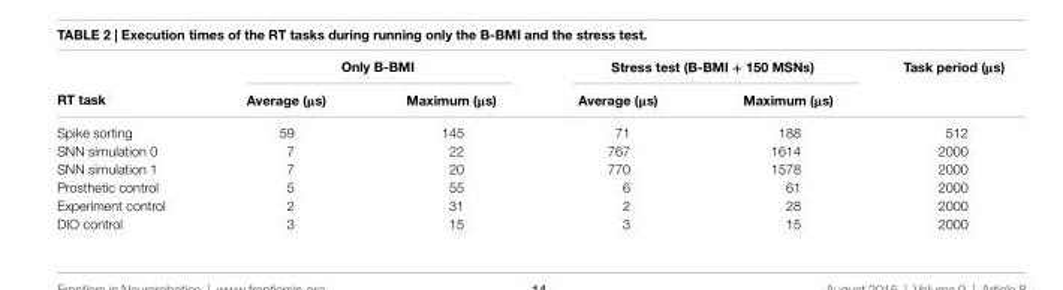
<table><thead><tr><td rowspan="2">rT task</td><td colspan="2">Only B-BMi</td><td colspan="2">stress test (B-BMi + 150 Msns)</td><td rowspan="2">Task period (μs)</td></tr><tr><td>average (μs)</td><td>Maximum (μs)</td><td>average (μs)</td><td>Maximum (μs)</td></tr></thead><tbody><tr><td>Spike sorting</td><td>59</td><td>145</td><td>71</td><td>188</td><td>512</td></tr><tr><td>SNN simulation 0</td><td>7</td><td>22</td><td>767</td><td>1614</td><td>2000</td></tr><tr><td>SNN simulation 1</td><td>7</td><td>20</td><td>770</td><td>1578</td><td>2000</td></tr><tr><td>Prosthetic control</td><td>5</td><td>55</td><td>6</td><td>61</td><td>2000</td></tr><tr><td>Experiment control</td><td>2</td><td>31</td><td>2</td><td>28</td><td>2000</td></tr><tr><td>DIO control</td><td>3</td><td>15</td><td>3</td><td>15</td><td>2000</td></tr></tbody></table>